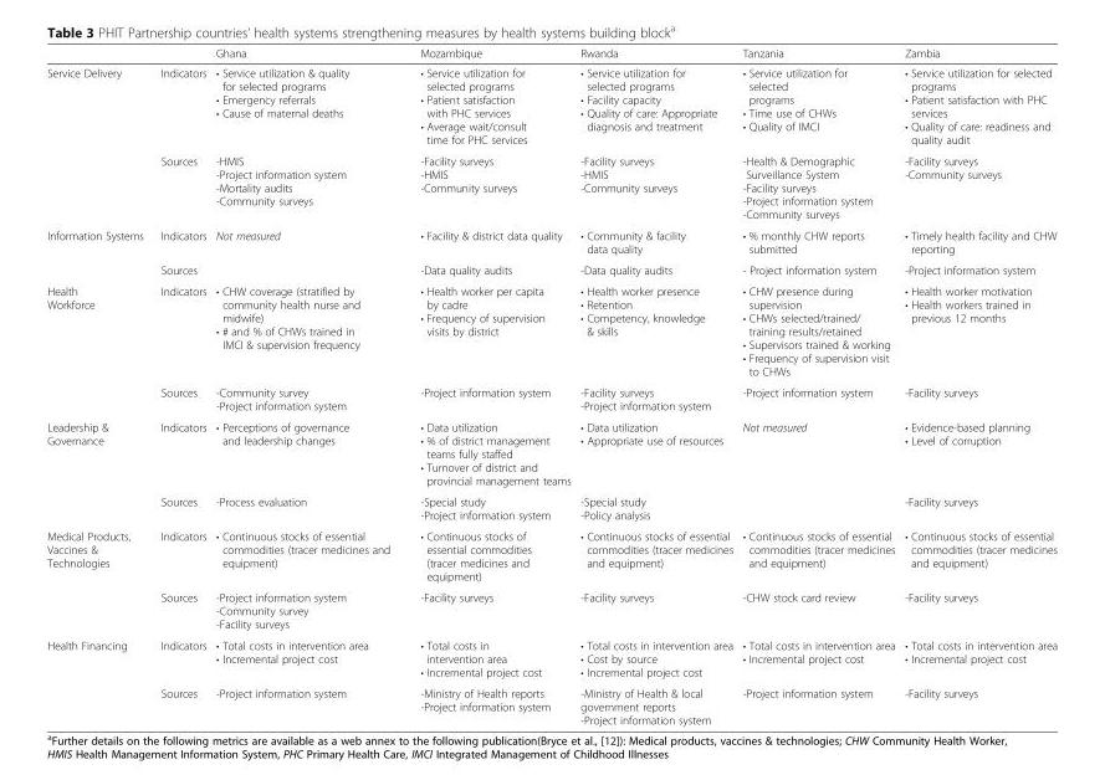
<table><thead><tr><td></td><td></td><td>Ghana</td><td>Mozambique</td><td>Rwanda</td><td>Tanzania</td><td>Zambia</td></tr></thead><tbody><tr><td rowspan="2">Service Delivery</td><td>Indicators</td><td>• Service utilization &amp; quality for selected programs • Emergency referrals • Cause of maternal deaths</td><td>• Service utilization for selected programs • Patient satisfaction with PHC services • Average wait/consult time for PHC services</td><td>• Service utilization for selected programs • Facility capacity • Quality of care: Appropriate diagnosis and treatment</td><td>• Service utilization for selected programs • Time use of CHWs • Quality of IMCI</td><td>• Service utilization for selected programs • Patient satisfaction with PHC services • Quality of care: readiness and quality audit</td></tr><tr><td>Sources</td><td>-HMIS -Project information system -Mortality audits -Community surveys</td><td>-Facility surveys -HMIS -Community surveys</td><td>-Facility surveys -HMIS -Community surveys</td><td>-Health &amp; Demographic Surveillance System -Facility surveys -Project information system -Community surveys</td><td>-Facility surveys -Community surveys</td></tr><tr><td rowspan="2">Information Systems</td><td>Indicators</td><td>Not measured</td><td>• Facility &amp; district data quality</td><td>• Community &amp; facility data quality</td><td>• % monthly CHW reports submitted</td><td>• Timely health facility and CHW reporting</td></tr><tr><td>Sources</td><td></td><td>-Data quality audits</td><td>-Data quality audits</td><td>- Project information system</td><td>-Project information system</td></tr><tr><td rowspan="2">Health Workforce</td><td>Indicators</td><td>• CHW coverage (stratified by community health nurse and midwife) • # and % of CHWs trained in IMCI &amp; supervision frequency</td><td>• Health worker per capita by cadre • Frequency of supervision visits by district</td><td>• Health worker presence • Retention • Competency, knowledge &amp; skills</td><td>• CHW presence during supervision • CHWs selected/trained/ training results/retained • Supervisors trained &amp; working • Frequency of supervision visit to CHWs</td><td>• Health worker motivation • Health workers trained in previous 12 months</td></tr><tr><td>Sources</td><td>-Community survey -Project information system</td><td>-Project information system</td><td>-Facility surveys -Project information system</td><td>-Project information system</td><td>-Facility surveys</td></tr><tr><td rowspan="2">Leadership &amp; Governance</td><td>Indicators</td><td>• Perceptions of governance and leadership changes</td><td>• Data utilization • % of district management teams fully staffed • Turnover of district and provincial management teams</td><td>• Data utilization • Appropriate use of resources</td><td>Not measured</td><td>• Evidence-based planning • Level of corruption</td></tr><tr><td>Sources</td><td>-Process evaluation</td><td>-Special study -Project information system</td><td>-Special study -Policy analysis</td><td></td><td>-Facility surveys</td></tr><tr><td rowspan="2">Medical Products, Vaccines &amp; Technologies</td><td>Indicators</td><td>• Continuous stocks of essential commodities (tracer medicines and equipment)</td><td>• Continuous stocks of essential commodities (tracer medicines and equipment)</td><td>• Continuous stocks of essential commodities (tracer medicines and equipment)</td><td>• Continuous stocks of essential commodities (tracer medicines and equipment)</td><td>• Continuous stocks of essential commodities (tracer medicines and equipment)</td></tr><tr><td>Sources</td><td>-Project information system -Community survey -Facility surveys</td><td>-Facility surveys</td><td>-Facility surveys</td><td>-CHW stock card review</td><td>-Facility surveys</td></tr><tr><td rowspan="2">Health Financing</td><td>Indicators</td><td>• Total costs in intervention area • Incremental project cost</td><td>• Total costs in intervention area • Incremental project cost</td><td>• Total costs in intervention area • Cost by source • Incremental project cost</td><td>• Total costs in intervention area • Incremental project cost</td><td>• Total costs in intervention area • Incremental project cost</td></tr><tr><td>Sources</td><td>-Project information system</td><td>-Ministry of Health reports -Project information system</td><td>-Ministry of Health &amp; local government reports -Project information system</td><td>-Project information system</td><td>-Facility surveys</td></tr></tbody></table>